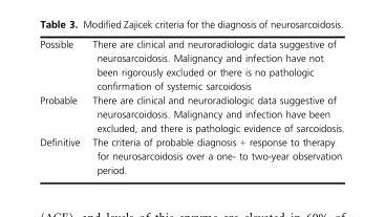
<table><tbody><tr><td>Possible</td><td>There are clinical and neuroradiologic data suggestive of neurosarcoidosis. Malignancy and infection have not been rigorously excluded or there is no pathologic confirmation of systemic sarcoidosis</td></tr><tr><td>Probable</td><td>There are clinical and neuroradiologic data suggestive of neurosarcoidosis. Malignancy and infection have been excluded, and there is pathologic evidence of sarcoidosis.</td></tr><tr><td>Definitive</td><td>The criteria of probable diagnosis + response to therapy for neurosarcoidosis over a one- to two-year observation period.</td></tr></tbody></table>